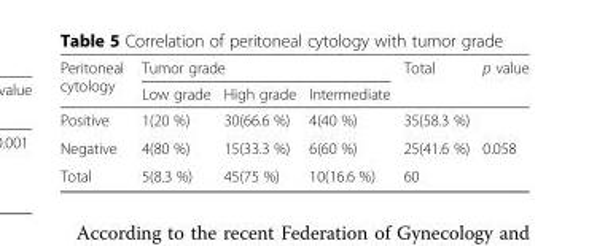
<table><thead><tr><td rowspan="2">Peritoneal cytology</td><td colspan="3">Tumor grade</td><td rowspan="2">Total</td><td rowspan="2">p value</td></tr><tr><td>Low grade</td><td>High grade</td><td>Intermediate</td></tr></thead><tbody><tr><td>Positive</td><td>1(20 %)</td><td>30(66.6 %)</td><td>4(40 %)</td><td>35(58.3 %)</td><td></td></tr><tr><td>Negative</td><td>4(80 %)</td><td>15(33.3 %)</td><td>6(60 %)</td><td>25(41.6 %)</td><td>0.058</td></tr><tr><td>Total</td><td>5(8.3 %)</td><td>45(75 %)</td><td>10(16.6 %)</td><td>60</td><td></td></tr></tbody></table>